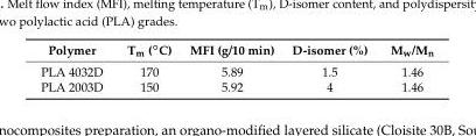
<table><thead><tr><td>Polymer</td><td>Tm (◦C)</td><td>MFI (g/10 min)</td><td>D-isomer (%)</td><td>M<sub>w</sub>/M<sub>n</sub></td></tr></thead><tbody><tr><td>PLA 4032D</td><td>170</td><td>5.89</td><td>1.5</td><td>1.46</td></tr><tr><td>PLA 2003D</td><td>150</td><td>5.92</td><td>4</td><td>1.46</td></tr></tbody></table>